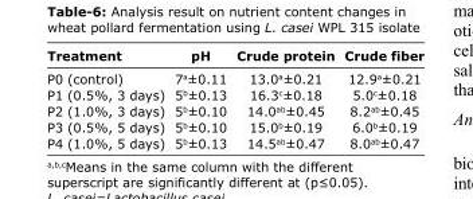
<table><thead><tr><td>Treatment</td><td>pH</td><td>Crude protein</td><td>Crude fiber</td></tr></thead><tbody><tr><td>P0 (control)</td><td>7<sup>a</sup>±0.11</td><td>13.0<sup>a</sup>±0.21</td><td>12.9<sup>a</sup>±0.21</td></tr><tr><td>P1 (0.5%, 3 days)</td><td>5<sup>b</sup>±0.13</td><td>16.3<sup>c</sup>±0.18</td><td>5.0<sup>c</sup>±0.18</td></tr><tr><td>P2 (1.0%, 3 days)</td><td>5<sup>b</sup>±0.10</td><td>14.0<sup>ab</sup>±0.45</td><td>8.2<sup>ab</sup>±0.45</td></tr><tr><td>P3 (0.5%, 5 days)</td><td>5<sup>b</sup>±0.10</td><td>15.0<sup>b</sup>±0.19</td><td>6.0<sup>b</sup>±0.19</td></tr><tr><td>P4 (1.0%, 5 days)</td><td>5<sup>b</sup>±0.13</td><td>14.5<sup>ab</sup>±0.47</td><td>8.0<sup>ab</sup>±0.47</td></tr></tbody></table>